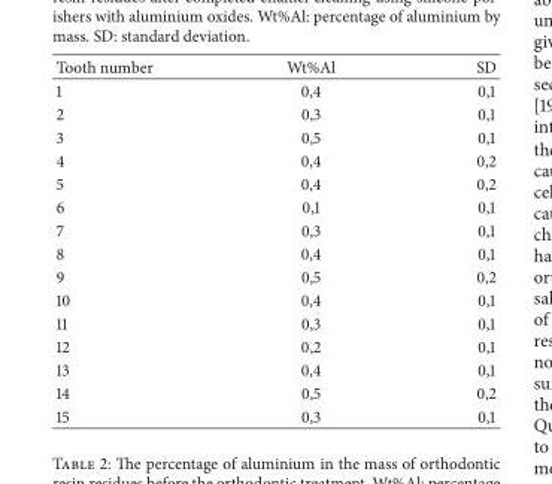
<table><thead><tr><td>Tooth number</td><td>Wt%Al</td><td>SD</td></tr></thead><tbody><tr><td>1</td><td>0,4</td><td>0,1</td></tr><tr><td>2</td><td>0,3</td><td>0,1</td></tr><tr><td>3</td><td>0,5</td><td>0,1</td></tr><tr><td>4</td><td>0,4</td><td>0,2</td></tr><tr><td>5</td><td>0,4</td><td>0,2</td></tr><tr><td>6</td><td>0,1</td><td>0,1</td></tr><tr><td>7</td><td>0,3</td><td>0,1</td></tr><tr><td>8</td><td>0,4</td><td>0,1</td></tr><tr><td>9</td><td>0,5</td><td>0,2</td></tr><tr><td>10</td><td>0,4</td><td>0,1</td></tr><tr><td>11</td><td>0,3</td><td>0,1</td></tr><tr><td>12</td><td>0,2</td><td>0,1</td></tr><tr><td>13</td><td>0,4</td><td>0,1</td></tr><tr><td>14</td><td>0,5</td><td>0,2</td></tr><tr><td>15</td><td>0,3</td><td>0,1</td></tr></tbody></table>